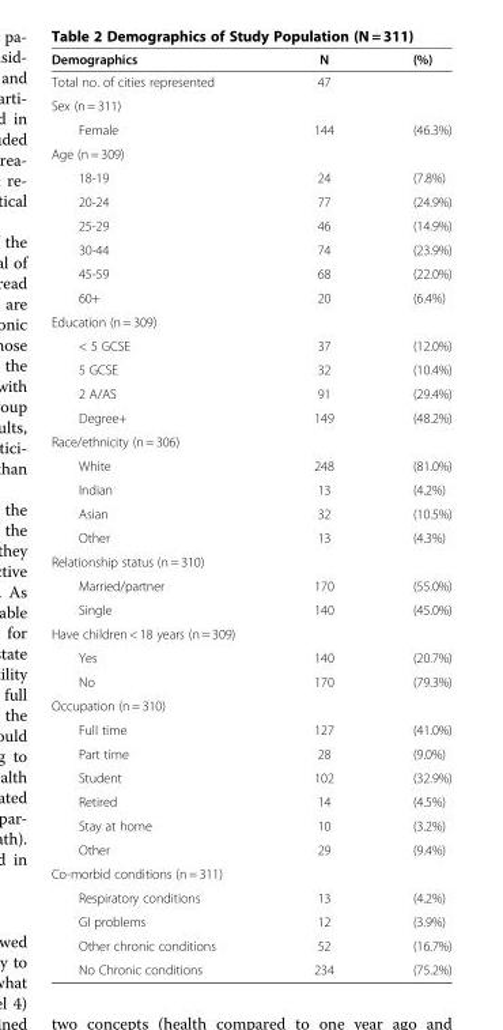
<table><thead><tr><td>Demographics</td><td>N</td><td>(%)</td></tr></thead><tbody><tr><td>Total no. of cities represented</td><td>47</td><td></td></tr><tr><td colspan="3">Sex (n = 311)</td></tr><tr><td>Female</td><td>144</td><td>(46.3%)</td></tr><tr><td colspan="3">Age (n = 309)</td></tr><tr><td>18-19</td><td>24</td><td>(7.8%)</td></tr><tr><td>20-24</td><td>77</td><td>(24.9%)</td></tr><tr><td>25-29</td><td>46</td><td>(14.9%)</td></tr><tr><td>30-44</td><td>74</td><td>(23.9%)</td></tr><tr><td>45-59</td><td>68</td><td>(22.0%)</td></tr><tr><td>60+</td><td>20</td><td>(6.4%)</td></tr><tr><td colspan="3">Education (n = 309)</td></tr><tr><td>&lt; 5 GCSE</td><td>37</td><td>(12.0%)</td></tr><tr><td>5 GCSE</td><td>32</td><td>(10.4%)</td></tr><tr><td>2 A/AS</td><td>91</td><td>(29.4%)</td></tr><tr><td>Degree+</td><td>149</td><td>(48.2%)</td></tr><tr><td colspan="3">Race/ethnicity (n = 306)</td></tr><tr><td>White</td><td>248</td><td>(81.0%)</td></tr><tr><td>Indian</td><td>13</td><td>(4.2%)</td></tr><tr><td>Asian</td><td>32</td><td>(10.5%)</td></tr><tr><td>Other</td><td>13</td><td>(4.3%)</td></tr><tr><td colspan="3">Relationship status (n = 310)</td></tr><tr><td>Married/partner</td><td>170</td><td>(55.0%)</td></tr><tr><td>Single</td><td>140</td><td>(45.0%)</td></tr><tr><td colspan="3">Have children &lt; 18 years (n = 309)</td></tr><tr><td>Yes</td><td>140</td><td>(20.7%)</td></tr><tr><td>No</td><td>170</td><td>(79.3%)</td></tr><tr><td colspan="3">Occupation (n = 310)</td></tr><tr><td>Full time</td><td>127</td><td>(41.0%)</td></tr><tr><td>Part time</td><td>28</td><td>(9.0%)</td></tr><tr><td>Student</td><td>102</td><td>(32.9%)</td></tr><tr><td>Retired</td><td>14</td><td>(4.5%)</td></tr><tr><td>Stay at home</td><td>10</td><td>(3.2%)</td></tr><tr><td>Other</td><td>29</td><td>(9.4%)</td></tr><tr><td colspan="3">Co-morbid conditions (n = 311)</td></tr><tr><td>Respiratory conditions</td><td>13</td><td>(4.2%)</td></tr><tr><td>GI problems</td><td>12</td><td>(3.9%)</td></tr><tr><td>Other chronic conditions</td><td>52</td><td>(16.7%)</td></tr><tr><td>No Chronic conditions</td><td>234</td><td>(75.2%)</td></tr></tbody></table>